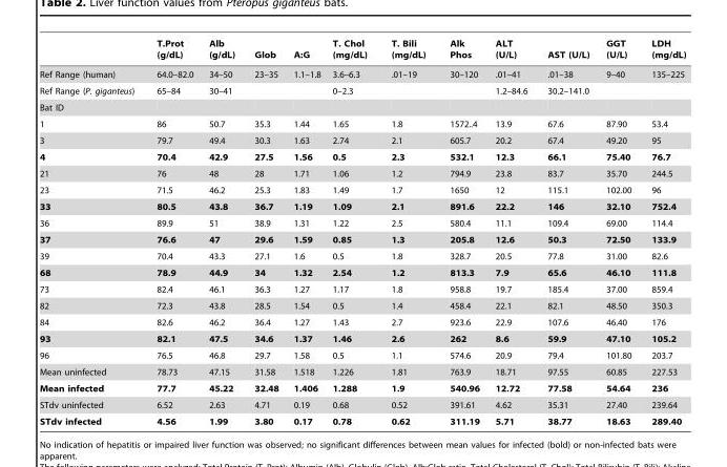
<table><thead><tr><td></td><td>T.Prot (g/dL)</td><td>Alb (g/dL)</td><td>Glob</td><td>A:G</td><td>T. Chol (mg/dL)</td><td>T. Bili (mg/dL)</td><td>Alk Phos</td><td>ALT (U/L)</td><td>AST (U/L)</td><td>GGT (U/L)</td><td>LDH (mg/dL)</td></tr></thead><tbody><tr><td>Ref Range (human)</td><td>64.0–82.0</td><td>34–50</td><td>23–35</td><td>1.1–1.8</td><td>3.6–6.3</td><td>.01–19</td><td>30–120</td><td>.01–41</td><td>.01–38</td><td>9–40</td><td>135–225</td></tr><tr><td>Ref Range (P. giganteus)</td><td>65–84</td><td>30–41</td><td></td><td></td><td>0–2.3</td><td></td><td></td><td>1.2–84.6</td><td>30.2–141.0</td><td></td><td></td></tr><tr><td colspan="12">Bat ID</td></tr><tr><td>1</td><td>86</td><td>50.7</td><td>35.3</td><td>1.44</td><td>1.65</td><td>1.8</td><td>1572..4</td><td>13.9</td><td>67.6</td><td>87.90</td><td>53.4</td></tr><tr><td>3</td><td>79.7</td><td>49.4</td><td>30.3</td><td>1.63</td><td>2.74</td><td>2.1</td><td>605.7</td><td>20.2</td><td>67.4</td><td>49.20</td><td>95</td></tr><tr><td>4</td><td>70.4</td><td>42.9</td><td>27.5</td><td>1.56</td><td>0.5</td><td>2.3</td><td>532.1</td><td>12.3</td><td>66.1</td><td>75.40</td><td>76.7</td></tr><tr><td>21</td><td>76</td><td>48</td><td>28</td><td>1.71</td><td>1.06</td><td>1.2</td><td>794.9</td><td>23.8</td><td>83.7</td><td>35.70</td><td>244.5</td></tr><tr><td>23</td><td>71.5</td><td>46.2</td><td>25.3</td><td>1.83</td><td>1.49</td><td>1.7</td><td>1650</td><td>12</td><td>115.1</td><td>102.00</td><td>96</td></tr><tr><td>33</td><td>80.5</td><td>43.8</td><td>36.7</td><td>1.19</td><td>1.09</td><td>2.1</td><td>891.6</td><td>22.2</td><td>146</td><td>32.10</td><td>752.4</td></tr><tr><td>36</td><td>89.9</td><td>51</td><td>38.9</td><td>1.31</td><td>1.22</td><td>2.5</td><td>580.4</td><td>11.1</td><td>109.4</td><td>69.00</td><td>114.4</td></tr><tr><td>37</td><td>76.6</td><td>47</td><td>29.6</td><td>1.59</td><td>0.85</td><td>1.3</td><td>205.8</td><td>12.6</td><td>50.3</td><td>72.50</td><td>133.9</td></tr><tr><td>39</td><td>70.4</td><td>43.3</td><td>27.1</td><td>1.6</td><td>0.5</td><td>1.8</td><td>328.7</td><td>20.5</td><td>77.8</td><td>31.00</td><td>82.6</td></tr><tr><td>68</td><td>78.9</td><td>44.9</td><td>34</td><td>1.32</td><td>2.54</td><td>1.2</td><td>813.3</td><td>7.9</td><td>65.6</td><td>46.10</td><td>111.8</td></tr><tr><td>73</td><td>82.4</td><td>46.1</td><td>36.3</td><td>1.27</td><td>1.17</td><td>1.8</td><td>958.8</td><td>19.7</td><td>185.4</td><td>37.00</td><td>859.4</td></tr><tr><td>82</td><td>72.3</td><td>43.8</td><td>28.5</td><td>1.54</td><td>0.5</td><td>1.4</td><td>458.4</td><td>22.1</td><td>82.1</td><td>48.50</td><td>350.3</td></tr><tr><td>84</td><td>82.6</td><td>46.2</td><td>36.4</td><td>1.27</td><td>1.43</td><td>2.7</td><td>923.6</td><td>22.9</td><td>107.6</td><td>46.40</td><td>176</td></tr><tr><td>93</td><td>82.1</td><td>47.5</td><td>34.6</td><td>1.37</td><td>1.46</td><td>2.6</td><td>262</td><td>8.6</td><td>59.9</td><td>47.10</td><td>105.2</td></tr><tr><td>96</td><td>76.5</td><td>46.8</td><td>29.7</td><td>1.58</td><td>0.5</td><td>1.1</td><td>574.6</td><td>20.9</td><td>79.4</td><td>101.80</td><td>203.7</td></tr><tr><td>Mean uninfected</td><td>78.73</td><td>47.15</td><td>31.58</td><td>1.518</td><td>1.226</td><td>1.81</td><td>763.9</td><td>18.71</td><td>97.55</td><td>60.85</td><td>227.53</td></tr><tr><td>Mean infected</td><td>77.7</td><td>45.22</td><td>32.48</td><td>1.406</td><td>1.288</td><td>1.9</td><td>540.96</td><td>12.72</td><td>77.58</td><td>54.64</td><td>236</td></tr><tr><td>STdv uninfected</td><td>6.52</td><td>2.63</td><td>4.71</td><td>0.19</td><td>0.68</td><td>0.52</td><td>391.61</td><td>4.62</td><td>35.31</td><td>27.40</td><td>239.64</td></tr><tr><td>STdv infected</td><td>4.56</td><td>1.99</td><td>3.80</td><td>0.17</td><td>0.78</td><td>0.62</td><td>311.19</td><td>5.71</td><td>38.77</td><td>18.63</td><td>289.40</td></tr></tbody></table>